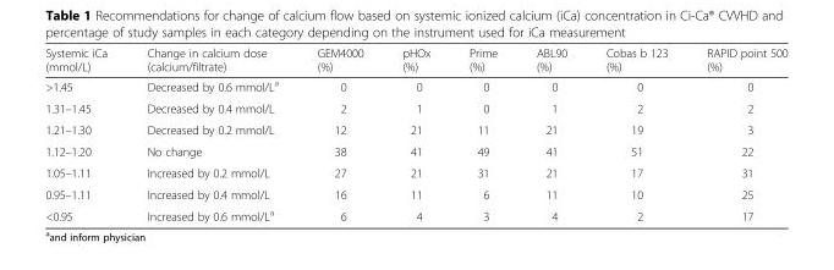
<table><thead><tr><td>Systemic iCa (mmol/L)</td><td>Change in calcium dose (calcium/filtrate)</td><td>GEM4000 (%)</td><td>pHOx (%)</td><td>Prime (%)</td><td>ABL90 (%)</td><td>Cobas b 123 (%)</td><td>RAPID point 500 (%)</td></tr></thead><tbody><tr><td>&gt;1.45</td><td>Decreased by 0.6 mmol/L<sup>a</sup></td><td>0</td><td>0</td><td>0</td><td>0</td><td>0</td><td>0</td></tr><tr><td>1.31–1.45</td><td>Decreased by 0.4 mmol/L</td><td>2</td><td>1</td><td>0</td><td>1</td><td>2</td><td>2</td></tr><tr><td>1.21–1.30</td><td>Decreased by 0.2 mmol/L</td><td>12</td><td>21</td><td>11</td><td>21</td><td>19</td><td>3</td></tr><tr><td>1.12–1.20</td><td>No change</td><td>38</td><td>41</td><td>49</td><td>41</td><td>51</td><td>22</td></tr><tr><td>1.05–1.11</td><td>Increased by 0.2 mmol/L</td><td>27</td><td>21</td><td>31</td><td>21</td><td>17</td><td>31</td></tr><tr><td>0.95–1.11</td><td>Increased by 0.4 mmol/L</td><td>16</td><td>11</td><td>6</td><td>11</td><td>10</td><td>25</td></tr><tr><td>&lt;0.95</td><td>Increased by 0.6 mmol/L<sup>a</sup></td><td>6</td><td>4</td><td>3</td><td>4</td><td>2</td><td>17</td></tr></tbody></table>